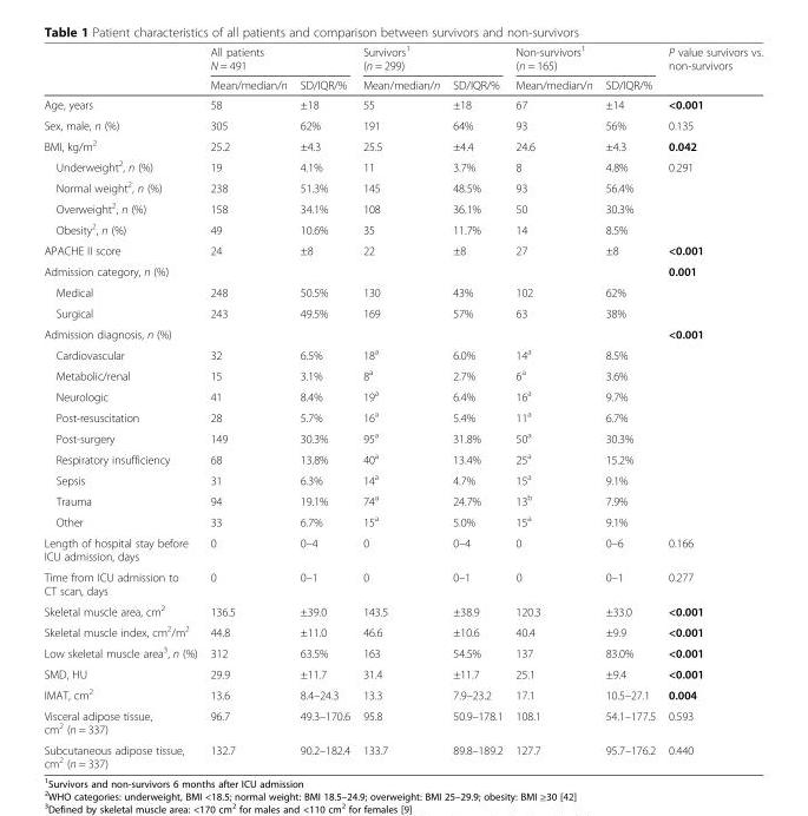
<table><thead><tr><td rowspan="2"></td><td colspan="2">All patients N = 491</td><td colspan="2">Survivors<sup>1</sup> (n = 299)</td><td colspan="2">Non-survivors<sup>1</sup> (n = 165)</td><td rowspan="2">P value survivors vs. non-survivors</td></tr><tr><td>Mean/median/n</td><td>SD/IQR/%</td><td>Mean/median/n</td><td>SD/IQR/%</td><td>Mean/median/n</td><td>SD/IQR/%</td></tr></thead><tbody><tr><td>Age, years</td><td>58</td><td>±18</td><td>55</td><td>±18</td><td>67</td><td>±14</td><td>&lt;0.001</td></tr><tr><td>Sex, male, n (%)</td><td>305</td><td>62%</td><td>191</td><td>64%</td><td>93</td><td>56%</td><td>0.135</td></tr><tr><td>BMI, kg/m<sup>2</sup></td><td>25.2</td><td>±4.3</td><td>25.5</td><td>±4.4</td><td>24.6</td><td>±4.3</td><td>0.042</td></tr><tr><td>Underweight<sup>2</sup>, n (%)</td><td>19</td><td>4.1%</td><td>11</td><td>3.7%</td><td>8</td><td>4.8%</td><td>0.291</td></tr><tr><td>Normal weight<sup>2</sup>, n (%)</td><td>238</td><td>51.3%</td><td>145</td><td>48.5%</td><td>93</td><td>56.4%</td><td></td></tr><tr><td>Overweight<sup>2</sup>, n (%)</td><td>158</td><td>34.1%</td><td>108</td><td>36.1%</td><td>50</td><td>30.3%</td><td></td></tr><tr><td>Obesity<sup>2</sup>, n (%)</td><td>49</td><td>10.6%</td><td>35</td><td>11.7%</td><td>14</td><td>8.5%</td><td></td></tr><tr><td>APACHE II score</td><td>24</td><td>±8</td><td>22</td><td>±8</td><td>27</td><td>±8</td><td>&lt;0.001</td></tr><tr><td>Admission category, n (%)</td><td></td><td></td><td></td><td></td><td></td><td></td><td>0.001</td></tr><tr><td>Medical</td><td>248</td><td>50.5%</td><td>130</td><td>43%</td><td>102</td><td>62%</td><td></td></tr><tr><td>Surgical</td><td>243</td><td>49.5%</td><td>169</td><td>57%</td><td>63</td><td>38%</td><td></td></tr><tr><td>Admission diagnosis, n (%)</td><td></td><td></td><td></td><td></td><td></td><td></td><td>&lt;0.001</td></tr><tr><td>Cardiovascular</td><td>32</td><td>6.5%</td><td>18<sup>a</sup></td><td>6.0%</td><td>14<sup>a</sup></td><td>8.5%</td><td></td></tr><tr><td>Metabolic/renal</td><td>15</td><td>3.1%</td><td>8<sup>a</sup></td><td>2.7%</td><td>6<sup>a</sup></td><td>3.6%</td><td></td></tr><tr><td>Neurologic</td><td>41</td><td>8.4%</td><td>19<sup>a</sup></td><td>6.4%</td><td>16<sup>a</sup></td><td>9.7%</td><td></td></tr><tr><td>Post-resuscitation</td><td>28</td><td>5.7%</td><td>16<sup>a</sup></td><td>5.4%</td><td>11<sup>a</sup></td><td>6.7%</td><td></td></tr><tr><td>Post-surgery</td><td>149</td><td>30.3%</td><td>95<sup>a</sup></td><td>31.8%</td><td>50<sup>a</sup></td><td>30.3%</td><td></td></tr><tr><td>Respiratory insufficiency</td><td>68</td><td>13.8%</td><td>40<sup>a</sup></td><td>13.4%</td><td>25<sup>a</sup></td><td>15.2%</td><td></td></tr><tr><td>Sepsis</td><td>31</td><td>6.3%</td><td>14<sup>a</sup></td><td>4.7%</td><td>15<sup>a</sup></td><td>9.1%</td><td></td></tr><tr><td>Trauma</td><td>94</td><td>19.1%</td><td>74<sup>a</sup></td><td>24.7%</td><td>13<sup>b</sup></td><td>7.9%</td><td></td></tr><tr><td>Other</td><td>33</td><td>6.7%</td><td>15<sup>a</sup></td><td>5.0%</td><td>15<sup>a</sup></td><td>9.1%</td><td></td></tr><tr><td>Length of hospital stay before ICU admission, days</td><td>0</td><td>0–4</td><td>0</td><td>0–4</td><td>0</td><td>0–6</td><td>0.166</td></tr><tr><td>Time from ICU admission to CT scan, days</td><td>0</td><td>0–1</td><td>0</td><td>0–1</td><td>0</td><td>0–1</td><td>0.277</td></tr><tr><td>Skeletal muscle area, cm<sup>2</sup></td><td>136.5</td><td>±39.0</td><td>143.5</td><td>±38.9</td><td>120.3</td><td>±33.0</td><td>&lt;0.001</td></tr><tr><td>Skeletal muscle index, cm<sup>2</sup>/m<sup>2</sup></td><td>44.8</td><td>±11.0</td><td>46.6</td><td>±10.6</td><td>40.4</td><td>±9.9</td><td>&lt;0.001</td></tr><tr><td>Low skeletal muscle area<sup>3</sup>, n (%)</td><td>312</td><td>63.5%</td><td>163</td><td>54.5%</td><td>137</td><td>83.0%</td><td>&lt;0.001</td></tr><tr><td>SMD, HU</td><td>29.9</td><td>±11.7</td><td>31.4</td><td>±11.7</td><td>25.1</td><td>±9.4</td><td>&lt;0.001</td></tr><tr><td>IMAT, cm<sup>2</sup></td><td>13.6</td><td>8.4–24.3</td><td>13.3</td><td>7.9–23.2</td><td>17.1</td><td>10.5–27.1</td><td>0.004</td></tr><tr><td>Visceral adipose tissue, cm<sup>2</sup> (n = 337)</td><td>96.7</td><td>49.3–170.6</td><td>95.8</td><td>50.9–178.1</td><td>108.1</td><td>54.1–177.5</td><td>0.593</td></tr><tr><td>Subcutaneous adipose tissue, cm<sup>2</sup> (n = 337)</td><td>132.7</td><td>90.2–182.4</td><td>133.7</td><td>89.8–189.2</td><td>127.7</td><td>95.7–176.2</td><td>0.440</td></tr></tbody></table>